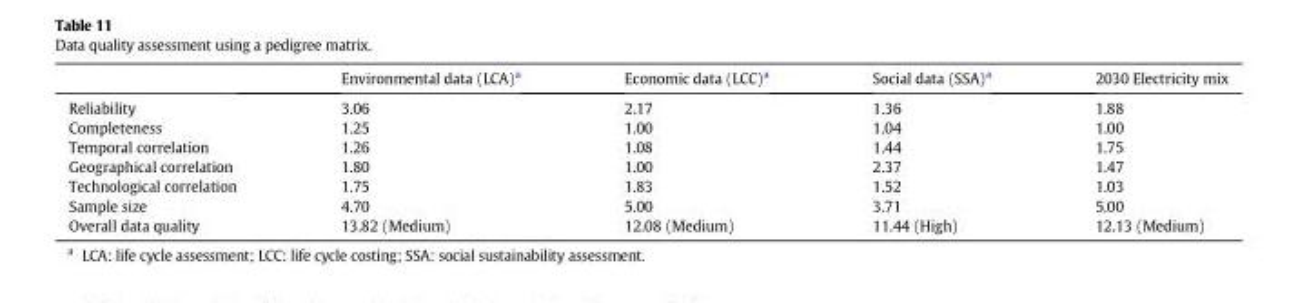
<table><thead><tr><td></td><td>Environmental data (LCA)<sup>a</sup></td><td>Economic data (LCC)<sup>a</sup></td><td>Social data (SSA)<sup>a</sup></td><td>2030 Electricity mix</td></tr></thead><tbody><tr><td>Reliability</td><td>3.06</td><td>2.17</td><td>1.36</td><td>1.88</td></tr><tr><td>Completeness</td><td>1.25</td><td>1.00</td><td>1.04</td><td>1.00</td></tr><tr><td>Temporal correlation</td><td>1.26</td><td>1.08</td><td>1.44</td><td>1.75</td></tr><tr><td>Geographical correlation</td><td>1.80</td><td>1.00</td><td>2.37</td><td>1.47</td></tr><tr><td>Technological correlation</td><td>1.75</td><td>1.83</td><td>1.52</td><td>1.03</td></tr><tr><td>Sample size</td><td>4.70</td><td>5.00</td><td>3.71</td><td>5.00</td></tr><tr><td>Overall data quality</td><td>13.82 (Medium)</td><td>12.08 (Medium)</td><td>11.44 (High)</td><td>12.13 (Medium)</td></tr></tbody></table>